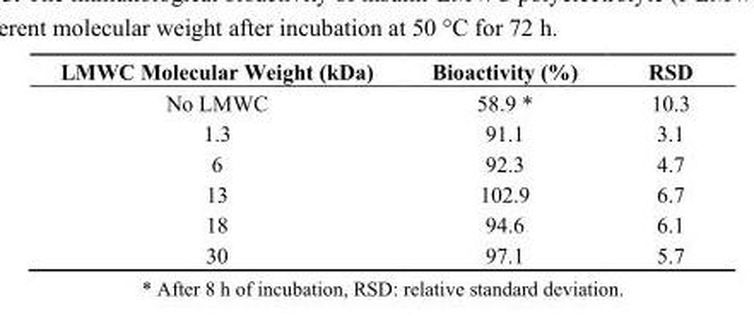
<table><thead><tr><td>LMWC Molecular Weight (kDa)</td><td>Bioactivity (%)</td><td>RSD</td></tr></thead><tbody><tr><td>No LMWC</td><td>58.9 *</td><td>10.3</td></tr><tr><td>1.3</td><td>91.1</td><td>3.1</td></tr><tr><td>6</td><td>92.3</td><td>4.7</td></tr><tr><td>13</td><td>102.9</td><td>6.7</td></tr><tr><td>18</td><td>94.6</td><td>6.1</td></tr><tr><td>30</td><td>97.1</td><td>5.7</td></tr></tbody></table>